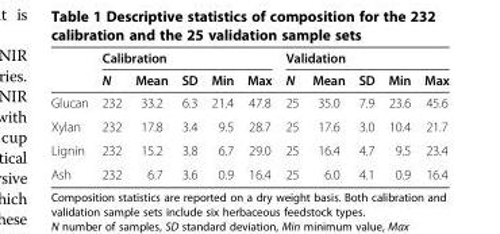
<table><thead><tr><td rowspan="2"></td><td colspan="5">Calibration</td><td colspan="5">Validation</td></tr><tr><td>N</td><td>Mean</td><td>SD</td><td>Min</td><td>Max</td><td>N</td><td>Mean</td><td>SD</td><td>Min</td><td>Max</td></tr></thead><tbody><tr><td>Glucan</td><td>232</td><td>33.2</td><td>6.3</td><td>21.4</td><td>47.8</td><td>25</td><td>35.0</td><td>7.9</td><td>23.6</td><td>45.6</td></tr><tr><td>Xylan</td><td>232</td><td>17.8</td><td>3.4</td><td>9.5</td><td>28.7</td><td>25</td><td>17.6</td><td>3.0</td><td>10.4</td><td>21.7</td></tr><tr><td>Lignin</td><td>232</td><td>15.2</td><td>3.8</td><td>6.7</td><td>29.0</td><td>25</td><td>16.4</td><td>4.7</td><td>9.5</td><td>23.4</td></tr><tr><td>Ash</td><td>232</td><td>6.7</td><td>3.6</td><td>0.9</td><td>16.4</td><td>25</td><td>6.0</td><td>4.1</td><td>0.9</td><td>16.4</td></tr></tbody></table>